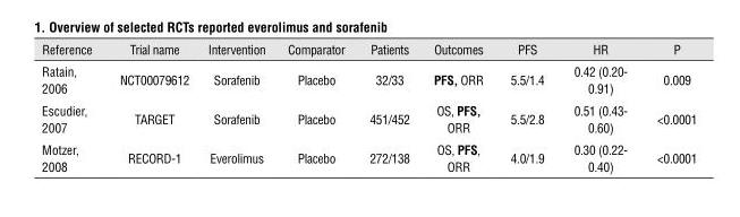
<table><thead><tr><td>Reference</td><td>Trial name</td><td>Intervention</td><td>Comparator</td><td>Patients</td><td>Outcomes</td><td>PFS</td><td>HR</td><td>P</td></tr></thead><tbody><tr><td>Ratain, 2006</td><td>NCT00079612</td><td>Sorafenib</td><td>Placebo</td><td>32/33</td><td>PFS, ORR</td><td>5.5/1.4</td><td>0.42 (0.20- 0.91)</td><td>0.009</td></tr><tr><td>Escudier, 2007</td><td>TARGET</td><td>Sorafenib</td><td>Placebo</td><td>451/452</td><td>OS, PFS, ORR</td><td>5.5/2.8</td><td>0.51 (0.43- 0.60)</td><td>&lt;0.0001</td></tr><tr><td>Motzer, 2008</td><td>RECORD-1</td><td>Everolimus</td><td>Placebo</td><td>272/138</td><td>OS, PFS, ORR</td><td>4.0/1.9</td><td>0.30 (0.22- 0.40)</td><td>&lt;0.0001</td></tr></tbody></table>